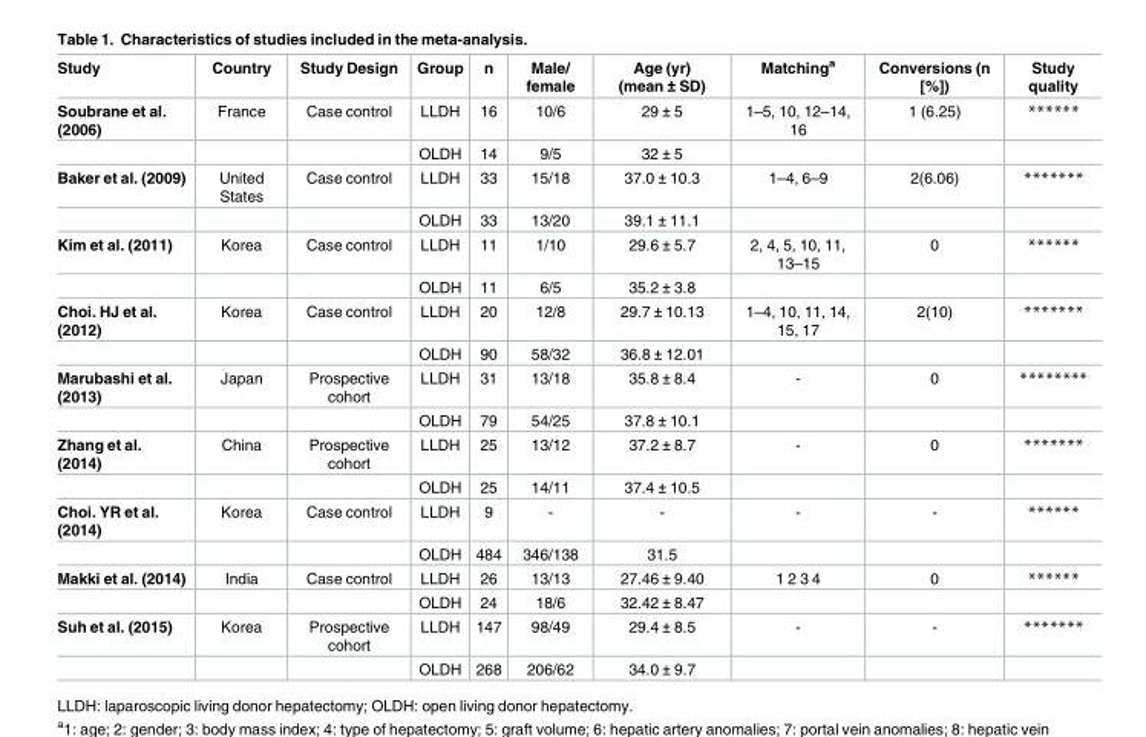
<table><thead><tr><td>Study</td><td>Country</td><td>Study Design</td><td>Group</td><td>n</td><td>Male/ female</td><td>Age (yr) (mean ± SD)</td><td>Matching<sup>a</sup></td><td>Conversions (n [%])</td><td>Study quality</td></tr></thead><tbody><tr><td rowspan="2">Soubrane et al. (2006)</td><td>France</td><td>Case control</td><td>LLDH</td><td>16</td><td>10/6</td><td>29 ± 5</td><td>1–5, 10, 12–14, 16</td><td>1 (6.25)</td><td>******</td></tr><tr><td></td><td></td><td>OLDH</td><td>14</td><td>9/5</td><td>32 ± 5</td><td></td><td></td><td></td></tr><tr><td rowspan="2">Baker et al. (2009)</td><td>United States</td><td>Case control</td><td>LLDH</td><td>33</td><td>15/18</td><td>37.0 ± 10.3</td><td>1–4, 6–9</td><td>2(6.06)</td><td>*******</td></tr><tr><td></td><td></td><td>OLDH</td><td>33</td><td>13/20</td><td>39.1 ± 11.1</td><td></td><td></td><td></td></tr><tr><td rowspan="2">Kim et al. (2011)</td><td>Korea</td><td>Case control</td><td>LLDH</td><td>11</td><td>1/10</td><td>29.6 ± 5.7</td><td>2, 4, 5, 10, 11, 13–15</td><td>0</td><td>******</td></tr><tr><td></td><td></td><td>OLDH</td><td>11</td><td>6/5</td><td>35.2 ± 3.8</td><td></td><td></td><td></td></tr><tr><td rowspan="2">Choi. HJ et al. (2012)</td><td>Korea</td><td>Case control</td><td>LLDH</td><td>20</td><td>12/8</td><td>29.7 ± 10.13</td><td>1–4, 10, 11, 14, 15, 17</td><td>2(10)</td><td>*******</td></tr><tr><td></td><td></td><td>OLDH</td><td>90</td><td>58/32</td><td>36.8 ± 12.01</td><td></td><td></td><td></td></tr><tr><td rowspan="2">Marubashi et al. (2013)</td><td>Japan</td><td>Prospective cohort</td><td>LLDH</td><td>31</td><td>13/18</td><td>35.8 ± 8.4</td><td>-</td><td>0</td><td>********</td></tr><tr><td></td><td></td><td>OLDH</td><td>79</td><td>54/25</td><td>37.8 ± 10.1</td><td></td><td></td><td></td></tr><tr><td rowspan="2">Zhang et al. (2014)</td><td>China</td><td>Prospective cohort</td><td>LLDH</td><td>25</td><td>13/12</td><td>37.2 ± 8.7</td><td>-</td><td>0</td><td>*******</td></tr><tr><td></td><td></td><td>OLDH</td><td>25</td><td>14/11</td><td>37.4 ± 10.5</td><td></td><td></td><td></td></tr><tr><td rowspan="2">Choi. YR et al. (2014)</td><td>Korea</td><td>Case control</td><td>LLDH</td><td>9</td><td>-</td><td>-</td><td>-</td><td>-</td><td>******</td></tr><tr><td></td><td></td><td>OLDH</td><td>484</td><td>346/138</td><td>31.5</td><td></td><td></td><td></td></tr><tr><td rowspan="2">Makki et al. (2014)</td><td>India</td><td>Case control</td><td>LLDH</td><td>26</td><td>13/13</td><td>27.46 ± 9.40</td><td>1 2 3 4</td><td>0</td><td>******</td></tr><tr><td></td><td></td><td>OLDH</td><td>24</td><td>18/6</td><td>32.42 ± 8.47</td><td></td><td></td><td></td></tr><tr><td rowspan="2">Suh et al. (2015)</td><td>Korea</td><td>Prospective cohort</td><td>LLDH</td><td>147</td><td>98/49</td><td>29.4 ± 8.5</td><td>-</td><td>-</td><td>*******</td></tr><tr><td></td><td></td><td>OLDH</td><td>268</td><td>206/62</td><td>34.0 ± 9.7</td><td></td><td></td><td></td></tr></tbody></table>